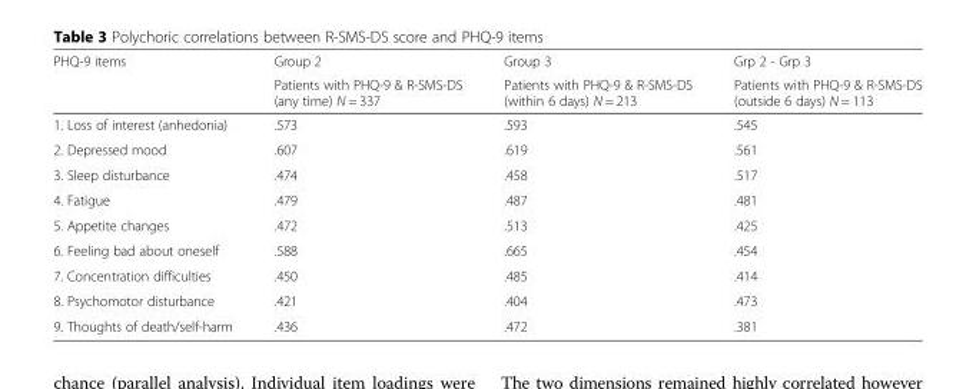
<table><thead><tr><td rowspan="2">PHQ-9 items</td><td rowspan="2">Group 2 Patients with PHQ-9 &amp; R-SMS-DS (any time) N = 337</td><td rowspan="2">Group 3 Patients with PHQ-9 &amp; R-SMS-DS (within 6 days) N = 213</td><td rowspan="2">Grp 2 - Grp 3 Patients with PHQ-9 &amp; R-SMS-DS (outside 6 days) N = 113</td></tr><tr></tr></thead><tbody><tr><td>1. Loss of interest (anhedonia)</td><td>.573</td><td>.593</td><td>.545</td></tr><tr><td>2. Depressed mood</td><td>.607</td><td>.619</td><td>.561</td></tr><tr><td>3. Sleep disturbance</td><td>.474</td><td>.458</td><td>.517</td></tr><tr><td>4. Fatigue</td><td>.479</td><td>.487</td><td>.481</td></tr><tr><td>5. Appetite changes</td><td>.472</td><td>.513</td><td>.425</td></tr><tr><td>6. Feeling bad about oneself</td><td>.588</td><td>.665</td><td>.454</td></tr><tr><td>7. Concentration difficulties</td><td>.450</td><td>.485</td><td>.414</td></tr><tr><td>8. Psychomotor disturbance</td><td>.421</td><td>.404</td><td>.473</td></tr><tr><td>9. Thoughts of death/self-harm</td><td>.436</td><td>.472</td><td>.381</td></tr></tbody></table>